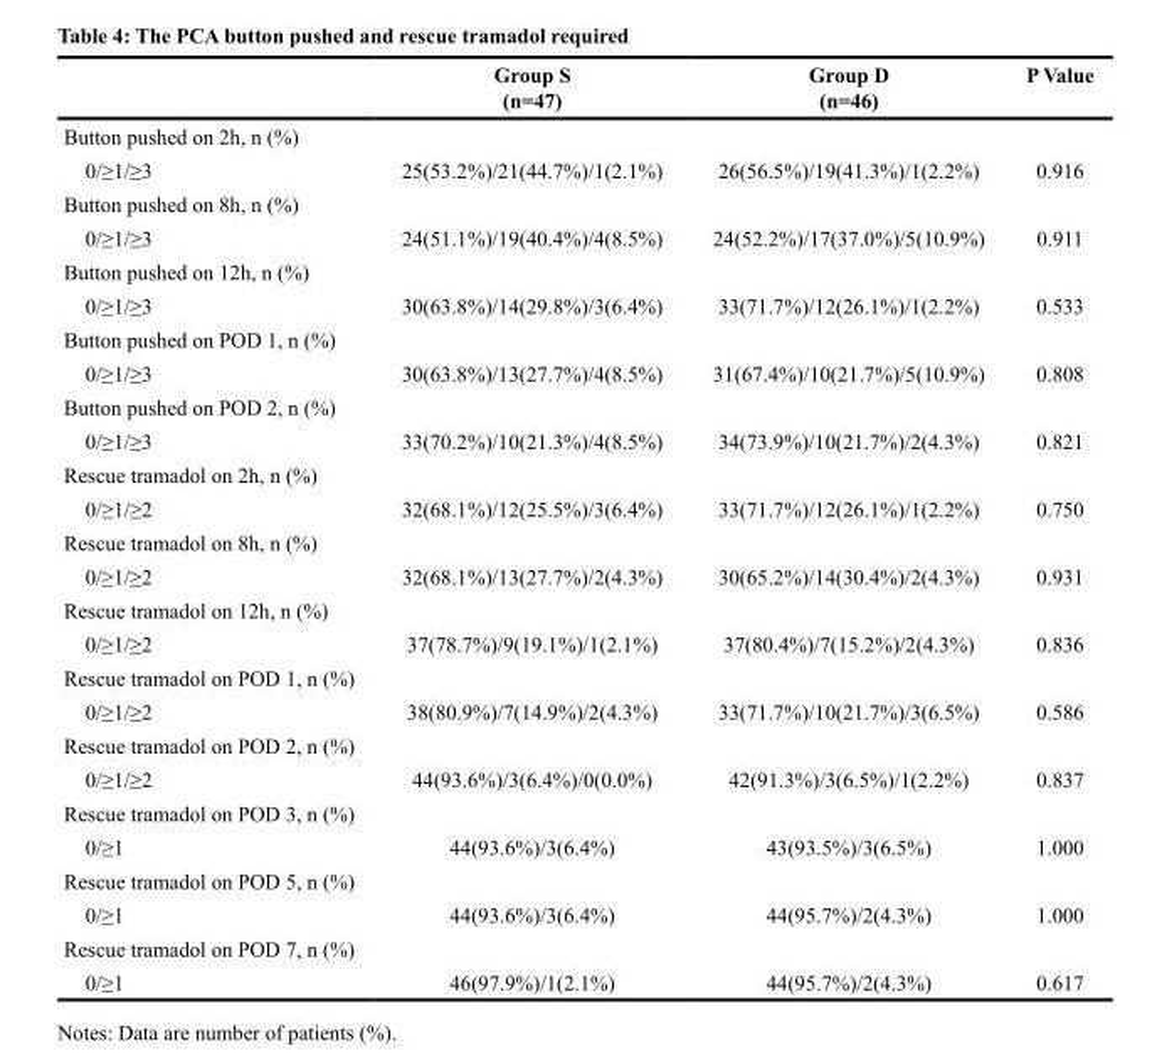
<table><thead><tr><td></td><td>Group S (n=47)</td><td>Group D (n=46)</td><td>P Value</td></tr></thead><tbody><tr><td colspan="4">Button pushed on 2h, n (%)</td></tr><tr><td>0/≥1/≥3</td><td>25(53.2%)/21(44.7%)/1(2.1%)</td><td>26(56.5%)/19(41.3%)/1(2.2%)</td><td>0.916</td></tr><tr><td colspan="4">Button pushed on 8h, n (%)</td></tr><tr><td>0/≥1/≥3</td><td>24(51.1%)/19(40.4%)/4(8.5%)</td><td>24(52.2%)/17(37.0%)/5(10.9%)</td><td>0.911</td></tr><tr><td colspan="4">Button pushed on 12h, n (%)</td></tr><tr><td>0/≥1/≥3</td><td>30(63.8%)/14(29.8%)/3(6.4%)</td><td>33(71.7%)/12(26.1%)/1(2.2%)</td><td>0.533</td></tr><tr><td colspan="4">Button pushed on POD 1, n (%)</td></tr><tr><td>0/≥1/≥3</td><td>30(63.8%)/13(27.7%)/4(8.5%)</td><td>31(67.4%)/10(21.7%)/5(10.9%)</td><td>0.808</td></tr><tr><td colspan="4">Button pushed on POD 2, n (%)</td></tr><tr><td>0/≥1/≥3</td><td>33(70.2%)/10(21.3%)/4(8.5%)</td><td>34(73.9%)/10(21.7%)/2(4.3%)</td><td>0.821</td></tr><tr><td colspan="4">Rescue tramadol on 2h, n (%)</td></tr><tr><td>0/≥1/≥2</td><td>32(68.1%)/12(25.5%)/3(6.4%)</td><td>33(71.7%)/12(26.1%)/1(2.2%)</td><td>0.750</td></tr><tr><td colspan="4">Rescue tramadol on 8h, n (%)</td></tr><tr><td>0/≥1/≥2</td><td>32(68.1%)/13(27.7%)/2(4.3%)</td><td>30(65.2%)/14(30.4%)/2(4.3%)</td><td>0.931</td></tr><tr><td colspan="4">Rescue tramadol on 12h, n (%)</td></tr><tr><td>0/≥1/≥2</td><td>37(78.7%)/9(19.1%)/1(2.1%)</td><td>37(80.4%)/7(15.2%)/2(4.3%)</td><td>0.836</td></tr><tr><td colspan="4">Rescue tramadol on POD 1, n (%)</td></tr><tr><td>0/≥1/≥2</td><td>38(80.9%)/7(14.9%)/2(4.3%)</td><td>33(71.7%)/10(21.7%)/3(6.5%)</td><td>0.586</td></tr><tr><td colspan="4">Rescue tramadol on POD 2, n (%)</td></tr><tr><td>0/≥1/≥2</td><td>44(93.6%)/3(6.4%)/0(0.0%)</td><td>42(91.3%)/3(6.5%)/1(2.2%)</td><td>0.837</td></tr><tr><td colspan="4">Rescue tramadol on POD 3, n (%)</td></tr><tr><td>0/≥1</td><td>44(93.6%)/3(6.4%)</td><td>43(93.5%)/3(6.5%)</td><td>1.000</td></tr><tr><td colspan="4">Rescue tramadol on POD 5, n (%)</td></tr><tr><td>0/≥1</td><td>44(93.6%)/3(6.4%)</td><td>44(95.7%)/2(4.3%)</td><td>1.000</td></tr><tr><td colspan="4">Rescue tramadol on POD 7, n (%)</td></tr><tr><td>0/≥1</td><td>46(97.9%)/1(2.1%)</td><td>44(95.7%)/2(4.3%)</td><td>0.617</td></tr></tbody></table>